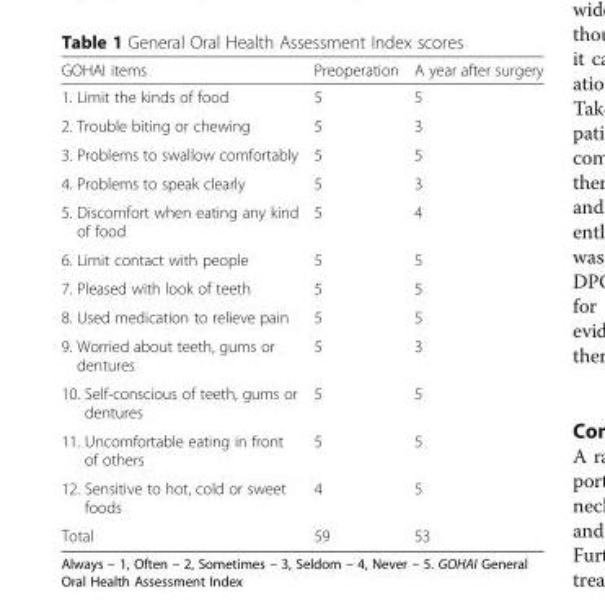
<table><thead><tr><td>GOHAI items</td><td>Preoperation</td><td>A year after surgery</td></tr></thead><tbody><tr><td>1. Limit the kinds of food</td><td>5</td><td>5</td></tr><tr><td>2. Trouble biting or chewing</td><td>5</td><td>3</td></tr><tr><td>3. Problems to swallow comfortably</td><td>5</td><td>5</td></tr><tr><td>4. Problems to speak clearly</td><td>5</td><td>3</td></tr><tr><td>5. Discomfort when eating any kind of food</td><td>5</td><td>4</td></tr><tr><td>6. Limit contact with people</td><td>5</td><td>5</td></tr><tr><td>7. Pleased with look of teeth</td><td>5</td><td>5</td></tr><tr><td>8. Used medication to relieve pain</td><td>5</td><td>5</td></tr><tr><td>9. Worried about teeth, gums or dentures</td><td>5</td><td>3</td></tr><tr><td>10. Self-conscious of teeth, gums or dentures</td><td>5</td><td>5</td></tr><tr><td>11. Uncomfortable eating in front of others</td><td>5</td><td>5</td></tr><tr><td>12. Sensitive to hot, cold or sweet foods</td><td>4</td><td>5</td></tr><tr><td>Total</td><td>59</td><td>53</td></tr></tbody></table>